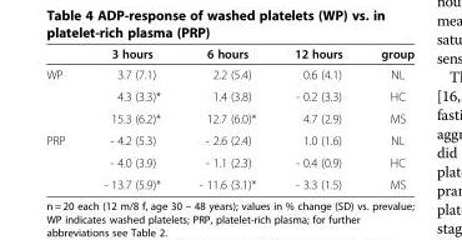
<table><thead><tr><td></td><td>3 hours</td><td>6 hours</td><td>12 hours</td><td>group</td></tr></thead><tbody><tr><td rowspan="3">WP</td><td>3.7 (7.1)</td><td>2.2 (5.4)</td><td>0.6 (4.1)</td><td>NL</td></tr><tr><td>4.3 (3.3)*</td><td>1.4 (3.8)</td><td>- 0.2 (3.3)</td><td>HC</td></tr><tr><td>15.3 (6.2)*</td><td>12.7 (6.0)*</td><td>4.7 (2.9)</td><td>MS</td></tr><tr><td rowspan="3">PRP</td><td>- 4.2 (5.3)</td><td>- 2.6 (2.4)</td><td>1.0 (1.6)</td><td>NL</td></tr><tr><td>- 4.0 (3.9)</td><td>- 1.1 (2.3)</td><td>- 0.4 (0.9)</td><td>HC</td></tr><tr><td>- 13.7 (5.9)*</td><td>- 11.6 (3.1)*</td><td>- 3.3 (1.5)</td><td>MS</td></tr></tbody></table>